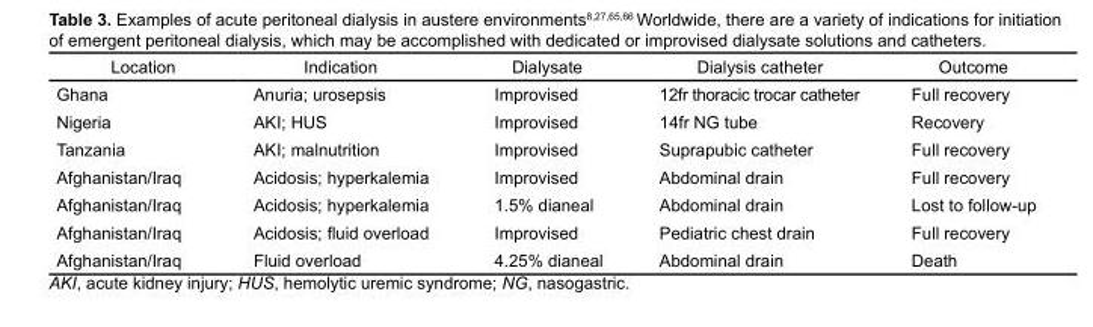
<table><thead><tr><td>Location</td><td>Indication</td><td>Dialysate</td><td>Dialysis catheter</td><td>Outcome</td></tr></thead><tbody><tr><td>Ghana</td><td>Anuria; urosepsis</td><td>Improvised</td><td>12fr thoracic trocar catheter</td><td>Full recovery</td></tr><tr><td>Nigeria</td><td>AKI; HUS</td><td>Improvised</td><td>14fr NG tube</td><td>Recovery</td></tr><tr><td>Tanzania</td><td>AKI; malnutrition</td><td>Improvised</td><td>Suprapubic catheter</td><td>Full recovery</td></tr><tr><td>Afghanistan/Iraq</td><td>Acidosis; hyperkalemia</td><td>Improvised</td><td>Abdominal drain</td><td>Full recovery</td></tr><tr><td>Afghanistan/Iraq</td><td>Acidosis; hyperkalemia</td><td>1.5% dianeal</td><td>Abdominal drain</td><td>Lost to follow-up</td></tr><tr><td>Afghanistan/Iraq</td><td>Acidosis; fluid overload</td><td>Improvised</td><td>Pediatric chest drain</td><td>Full recovery</td></tr><tr><td>Afghanistan/Iraq</td><td>Fluid overload</td><td>4.25% dianeal</td><td>Abdominal drain</td><td>Death</td></tr></tbody></table>